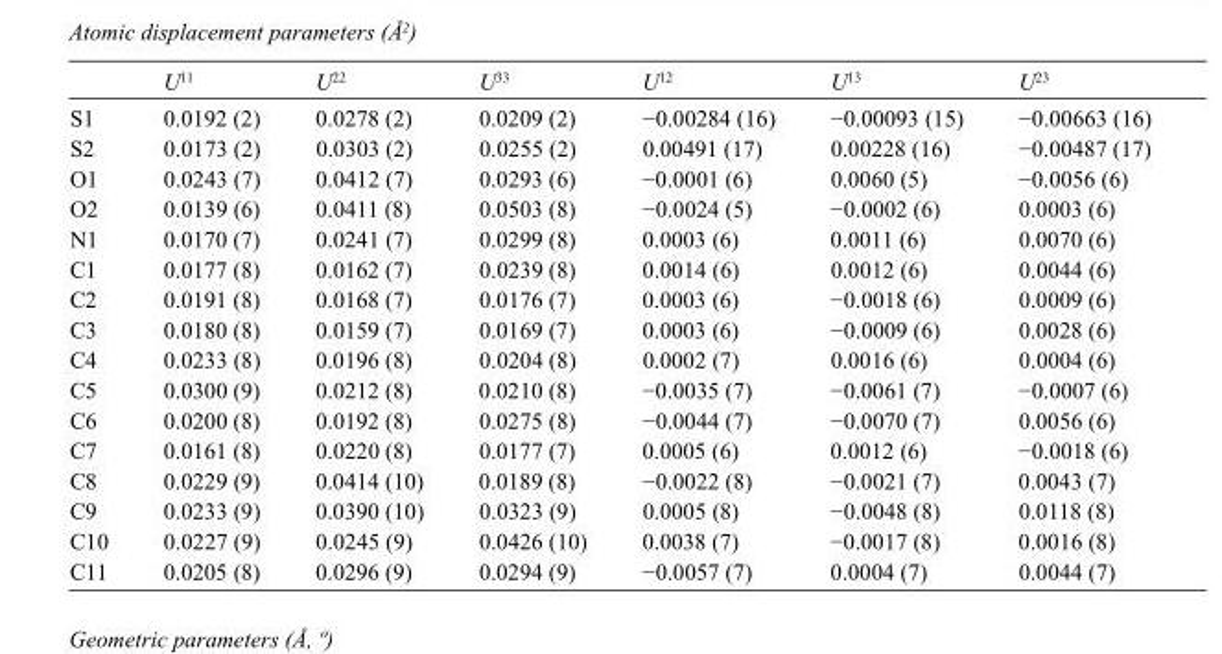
<table><thead><tr><td></td><td>U<sup>11</sup></td><td>U<sup>22</sup></td><td>U<sup>33</sup></td><td>U<sup>12</sup></td><td>U<sup>13</sup></td><td>U<sup>23</sup></td></tr></thead><tbody><tr><td>S1</td><td>0.0192 (2)</td><td>0.0278 (2)</td><td>0.0209 (2)</td><td>−0.00284 (16)</td><td>−0.00093 (15)</td><td>−0.00663 (16)</td></tr><tr><td>S2</td><td>0.0173 (2)</td><td>0.0303 (2)</td><td>0.0255 (2)</td><td>0.00491 (17)</td><td>0.00228 (16)</td><td>−0.00487 (17)</td></tr><tr><td>O1</td><td>0.0243 (7)</td><td>0.0412 (7)</td><td>0.0293 (6)</td><td>−0.0001 (6)</td><td>0.0060 (5)</td><td>−0.0056 (6)</td></tr><tr><td>O2</td><td>0.0139 (6)</td><td>0.0411 (8)</td><td>0.0503 (8)</td><td>−0.0024 (5)</td><td>−0.0002 (6)</td><td>0.0003 (6)</td></tr><tr><td>N1</td><td>0.0170 (7)</td><td>0.0241 (7)</td><td>0.0299 (8)</td><td>0.0003 (6)</td><td>0.0011 (6)</td><td>0.0070 (6)</td></tr><tr><td>C1</td><td>0.0177 (8)</td><td>0.0162 (7)</td><td>0.0239 (8)</td><td>0.0014 (6)</td><td>0.0012 (6)</td><td>0.0044 (6)</td></tr><tr><td>C2</td><td>0.0191 (8)</td><td>0.0168 (7)</td><td>0.0176 (7)</td><td>0.0003 (6)</td><td>−0.0018 (6)</td><td>0.0009 (6)</td></tr><tr><td>C3</td><td>0.0180 (8)</td><td>0.0159 (7)</td><td>0.0169 (7)</td><td>0.0003 (6)</td><td>−0.0009 (6)</td><td>0.0028 (6)</td></tr><tr><td>C4</td><td>0.0233 (8)</td><td>0.0196 (8)</td><td>0.0204 (8)</td><td>0.0002 (7)</td><td>0.0016 (6)</td><td>0.0004 (6)</td></tr><tr><td>C5</td><td>0.0300 (9)</td><td>0.0212 (8)</td><td>0.0210 (8)</td><td>−0.0035 (7)</td><td>−0.0061 (7)</td><td>−0.0007 (6)</td></tr><tr><td>C6</td><td>0.0200 (8)</td><td>0.0192 (8)</td><td>0.0275 (8)</td><td>−0.0044 (7)</td><td>−0.0070 (7)</td><td>0.0056 (6)</td></tr><tr><td>C7</td><td>0.0161 (8)</td><td>0.0220 (8)</td><td>0.0177 (7)</td><td>0.0005 (6)</td><td>0.0012 (6)</td><td>−0.0018 (6)</td></tr><tr><td>C8</td><td>0.0229 (9)</td><td>0.0414 (10)</td><td>0.0189 (8)</td><td>−0.0022 (8)</td><td>−0.0021 (7)</td><td>0.0043 (7)</td></tr><tr><td>C9</td><td>0.0233 (9)</td><td>0.0390 (10)</td><td>0.0323 (9)</td><td>0.0005 (8)</td><td>−0.0048 (8)</td><td>0.0118 (8)</td></tr><tr><td>C10</td><td>0.0227 (9)</td><td>0.0245 (9)</td><td>0.0426 (10)</td><td>0.0038 (7)</td><td>−0.0017 (8)</td><td>0.0016 (8)</td></tr><tr><td>C11</td><td>0.0205 (8)</td><td>0.0296 (9)</td><td>0.0294 (9)</td><td>−0.0057 (7)</td><td>0.0004 (7)</td><td>0.0044 (7)</td></tr></tbody></table>